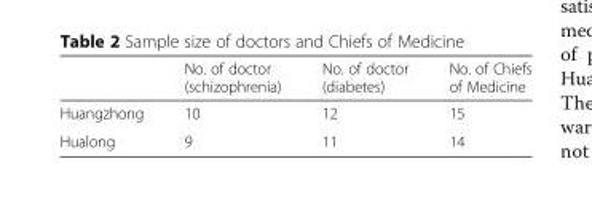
<table><thead><tr><td></td><td>No. of doctor (schizophrenia)</td><td>No. of doctor (diabetes)</td><td>No. of Chiefs of Medicine</td></tr></thead><tbody><tr><td>Huangzhong</td><td>10</td><td>12</td><td>15</td></tr><tr><td>Hualong</td><td>9</td><td>11</td><td>14</td></tr></tbody></table>